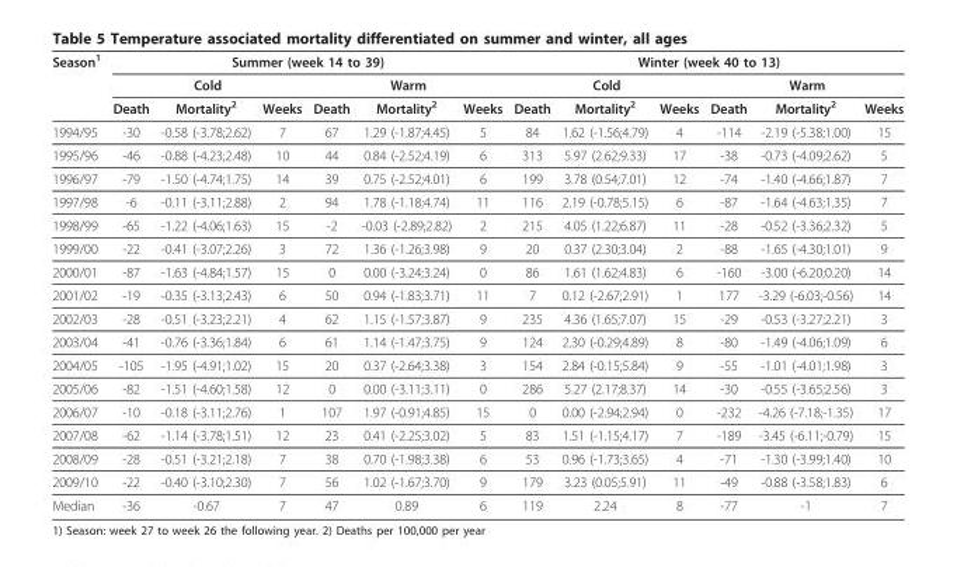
<table><thead><tr><td rowspan="3">Season<sup>1</sup></td><td colspan="6">Summer (week 14 to 39)</td><td colspan="6">Winter (week 40 to 13)</td></tr><tr><td colspan="3">Cold</td><td colspan="3">Warm</td><td colspan="3">Cold</td><td colspan="3">Warm</td></tr><tr><td>Death</td><td>Mortality<sup>2</sup></td><td>Weeks</td><td>Death</td><td>Mortality<sup>2</sup></td><td>Weeks</td><td>Death</td><td>Mortality<sup>2</sup></td><td>Weeks</td><td>Death</td><td>Mortality<sup>2</sup></td><td>Weeks</td></tr></thead><tbody><tr><td>1994/95</td><td>-30</td><td>-0.58 (-3.78;2.62)</td><td>7</td><td>67</td><td>1.29 (-1.87;4.45)</td><td>5</td><td>84</td><td>1.62 (-1.56;4.79)</td><td>4</td><td>-114</td><td>-2.19 (-5.38;1.00)</td><td>15</td></tr><tr><td>1995/96</td><td>-46</td><td>-0.88 (-4.23;2.48)</td><td>10</td><td>44</td><td>0.84 (-2.52;4.19)</td><td>6</td><td>313</td><td>5.97 (2.62;9.33)</td><td>17</td><td>-38</td><td>-0.73 (-4.09;2.62)</td><td>5</td></tr><tr><td>1996/97</td><td>-79</td><td>-1.50 (-4.74;1.75)</td><td>14</td><td>39</td><td>0.75 (-2.52;4.01)</td><td>6</td><td>199</td><td>3.78 (0.54;7.01)</td><td>12</td><td>-74</td><td>-1.40 (-4.66;1.87)</td><td>7</td></tr><tr><td>1997/98</td><td>-6</td><td>-0.11 (-3.11;2.88)</td><td>2</td><td>94</td><td>1.78 (-1.18;4.74)</td><td>11</td><td>116</td><td>2.19 (-0.78;5.15)</td><td>6</td><td>-87</td><td>-1.64 (-4.63;1.35)</td><td>7</td></tr><tr><td>1998/99</td><td>-65</td><td>-1.22 (-4.06;1.63)</td><td>15</td><td>-2</td><td>-0.03 (-2.89;2.82)</td><td>2</td><td>215</td><td>4.05 (1.22;6.87)</td><td>11</td><td>-28</td><td>-0.52 (-3.36;2.32)</td><td>5</td></tr><tr><td>1999/00</td><td>-22</td><td>-0.41 (-3.07;2.26)</td><td>3</td><td>72</td><td>1.36 (-1.26;3.98)</td><td>9</td><td>20</td><td>0.37 (2.30;3.04)</td><td>2</td><td>-88</td><td>-1.65 (-4.30;1.01)</td><td>9</td></tr><tr><td>2000/01</td><td>-87</td><td>-1.63 (-4.84;1.57)</td><td>15</td><td>0</td><td>0.00 (-3.24;3.24)</td><td>0</td><td>86</td><td>1.61 (1.62;4.83)</td><td>6</td><td>-160</td><td>-3.00 (-6.20;0.20)</td><td>14</td></tr><tr><td>2001/02</td><td>-19</td><td>-0.35 (-3.13;2.43)</td><td>6</td><td>50</td><td>0.94 (-1.83;3.71)</td><td>11</td><td>7</td><td>0.12 (-2.67;2.91)</td><td>1</td><td>177</td><td>-3.29 (-6.03;-0.56)</td><td>14</td></tr><tr><td>2002/03</td><td>-28</td><td>-0.51 (-3.23;2.21)</td><td>4</td><td>62</td><td>1.15 (-1.57;3.87)</td><td>9</td><td>235</td><td>4.36 (1.65;7.07)</td><td>15</td><td>-29</td><td>-0.53 (-3.27;2.21)</td><td>3</td></tr><tr><td>2003/04</td><td>-41</td><td>-0.76 (-3.36;1.84)</td><td>6</td><td>61</td><td>1.14 (-1.47;3.75)</td><td>9</td><td>124</td><td>2.30 (-0.29;4.89)</td><td>8</td><td>-80</td><td>-1.49 (-4.06;1.09)</td><td>6</td></tr><tr><td>2004/05</td><td>-105</td><td>-1.95 (-4.91;1.02)</td><td>15</td><td>20</td><td>0.37 (-2.64;3.38)</td><td>3</td><td>154</td><td>2.84 (-0.15;5.84)</td><td>9</td><td>-55</td><td>-1.01 (-4.01;1.98)</td><td>3</td></tr><tr><td>2005/06</td><td>-82</td><td>-1.51 (-4.60;1.58)</td><td>12</td><td>0</td><td>0.00 (-3.11;3.11)</td><td>0</td><td>286</td><td>5.27 (2.17;8.37)</td><td>14</td><td>-30</td><td>-0.55 (-3.65;2.56)</td><td>3</td></tr><tr><td>2006/07</td><td>-10</td><td>-0.18 (-3.11;2.76)</td><td>1</td><td>107</td><td>1.97 (-0.91;4.85)</td><td>15</td><td>0</td><td>0.00 (-2.94;2.94)</td><td>0</td><td>-232</td><td>-4.26 (-7.18;-1.35)</td><td>17</td></tr><tr><td>2007/08</td><td>-62</td><td>-1.14 (-3.78;1.51)</td><td>12</td><td>23</td><td>0.41 (-2.25;3.02)</td><td>5</td><td>83</td><td>1.51 (-1.15;4.17)</td><td>7</td><td>-189</td><td>-3.45 (-6.11;-0.79)</td><td>15</td></tr><tr><td>2008/09</td><td>-28</td><td>-0.51 (-3.21;2.18)</td><td>7</td><td>38</td><td>0.70 (-1.98;3.38)</td><td>6</td><td>53</td><td>0.96 (-1.73;3.65)</td><td>4</td><td>-71</td><td>-1.30 (-3.99;1.40)</td><td>10</td></tr><tr><td>2009/10</td><td>-22</td><td>-0.40 (-3.10;2.30)</td><td>7</td><td>56</td><td>1.02 (-1.67;3.70)</td><td>9</td><td>179</td><td>3.23 (0.05;5.91)</td><td>11</td><td>-49</td><td>-0.88 (-3.58;1.83)</td><td>6</td></tr><tr><td>Median</td><td>-36</td><td>-0.67</td><td>7</td><td>47</td><td>0.89</td><td>6</td><td>119</td><td>2.24</td><td>8</td><td>-77</td><td>-1</td><td>7</td></tr></tbody></table>